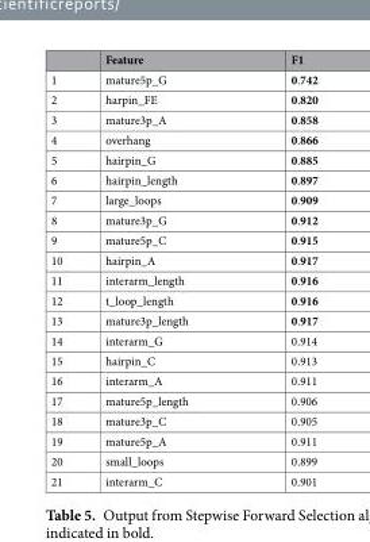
<table><thead><tr><td></td><td>Feature</td><td>F1</td></tr></thead><tbody><tr><td>1</td><td>mature5p_G</td><td>0.742</td></tr><tr><td>2</td><td>harpin_FE</td><td>0.820</td></tr><tr><td>3</td><td>mature3p_A</td><td>0.858</td></tr><tr><td>4</td><td>overhang</td><td>0.866</td></tr><tr><td>5</td><td>hairpin_G</td><td>0.885</td></tr><tr><td>6</td><td>hairpin_length</td><td>0.897</td></tr><tr><td>7</td><td>large_loops</td><td>0.909</td></tr><tr><td>8</td><td>mature3p_G</td><td>0.912</td></tr><tr><td>9</td><td>mature5p_C</td><td>0.915</td></tr><tr><td>10</td><td>hairpin_A</td><td>0.917</td></tr><tr><td>11</td><td>interarm_length</td><td>0.916</td></tr><tr><td>12</td><td>t_loop_length</td><td>0.916</td></tr><tr><td>13</td><td>mature3p_length</td><td>0.917</td></tr><tr><td>14</td><td>interarm_G</td><td>0.914</td></tr><tr><td>15</td><td>hairpin_C</td><td>0.913</td></tr><tr><td>16</td><td>interarm_A</td><td>0.911</td></tr><tr><td>17</td><td>mature5p_length</td><td>0.906</td></tr><tr><td>18</td><td>mature3p_C</td><td>0.905</td></tr><tr><td>19</td><td>mature5p_A</td><td>0.911</td></tr><tr><td>20</td><td>small_loops</td><td>0.899</td></tr><tr><td>21</td><td>interarm_C</td><td>0.901</td></tr></tbody></table>